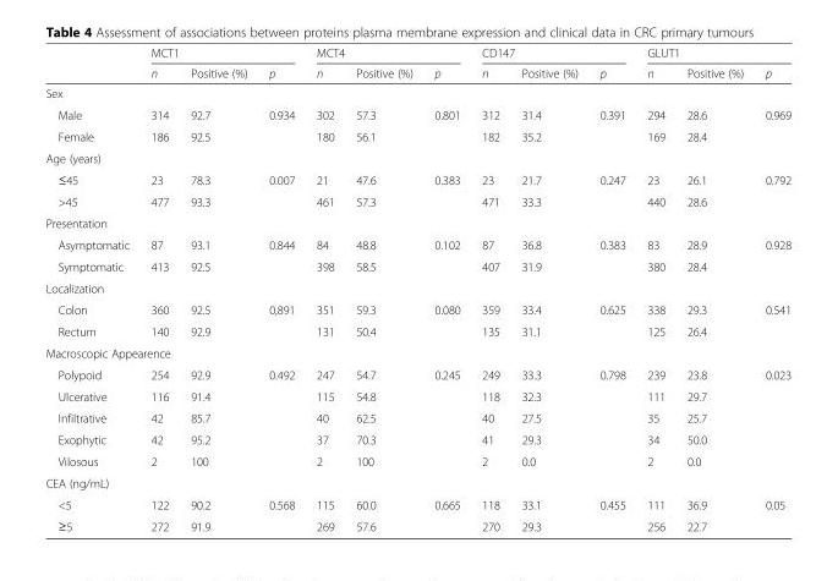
<table><thead><tr><td rowspan="2"></td><td colspan="3">MCT1</td><td colspan="3">MCT4</td><td colspan="3">CD147</td><td colspan="3">GLUT1</td></tr><tr><td>n</td><td>Positive (%)</td><td>p</td><td>n</td><td>Positive (%)</td><td>p</td><td>n</td><td>Positive (%)</td><td>p</td><td>n</td><td>Positive (%)</td><td>p</td></tr></thead><tbody><tr><td colspan="13">Sex</td></tr><tr><td>Male</td><td>314</td><td>92.7</td><td>0.934</td><td>302</td><td>57.3</td><td>0.801</td><td>312</td><td>31.4</td><td>0.391</td><td>294</td><td>28.6</td><td>0.969</td></tr><tr><td>Female</td><td>186</td><td>92.5</td><td></td><td>180</td><td>56.1</td><td></td><td>182</td><td>35.2</td><td></td><td>169</td><td>28.4</td><td></td></tr><tr><td colspan="13">Age (years)</td></tr><tr><td>≤45</td><td>23</td><td>78.3</td><td>0.007</td><td>21</td><td>47.6</td><td>0.383</td><td>23</td><td>21.7</td><td>0.247</td><td>23</td><td>26.1</td><td>0.792</td></tr><tr><td>&gt;45</td><td>477</td><td>93.3</td><td></td><td>461</td><td>57.3</td><td></td><td>471</td><td>33.3</td><td></td><td>440</td><td>28.6</td><td></td></tr><tr><td colspan="13">Presentation</td></tr><tr><td>Asymptomatic</td><td>87</td><td>93.1</td><td>0.844</td><td>84</td><td>48.8</td><td>0.102</td><td>87</td><td>36.8</td><td>0.383</td><td>83</td><td>28.9</td><td>0.928</td></tr><tr><td>Symptomatic</td><td>413</td><td>92.5</td><td></td><td>398</td><td>58.5</td><td></td><td>407</td><td>31.9</td><td></td><td>380</td><td>28.4</td><td></td></tr><tr><td colspan="13">Localization</td></tr><tr><td>Colon</td><td>360</td><td>92.5</td><td>0,891</td><td>351</td><td>59.3</td><td>0.080</td><td>359</td><td>33.4</td><td>0.625</td><td>338</td><td>29.3</td><td>0.541</td></tr><tr><td>Rectum</td><td>140</td><td>92.9</td><td></td><td>131</td><td>50.4</td><td></td><td>135</td><td>31.1</td><td></td><td>125</td><td>26.4</td><td></td></tr><tr><td colspan="13">Macroscopic Appearence</td></tr><tr><td>Polypoid</td><td>254</td><td>92.9</td><td>0.492</td><td>247</td><td>54.7</td><td>0.245</td><td>249</td><td>33.3</td><td>0.798</td><td>239</td><td>23.8</td><td>0.023</td></tr><tr><td>Ulcerative</td><td>116</td><td>91.4</td><td></td><td>115</td><td>54.8</td><td></td><td>118</td><td>32.3</td><td></td><td>111</td><td>29.7</td><td></td></tr><tr><td>Infiltrative</td><td>42</td><td>85.7</td><td></td><td>40</td><td>62.5</td><td></td><td>40</td><td>27.5</td><td></td><td>35</td><td>25.7</td><td></td></tr><tr><td>Exophytic</td><td>42</td><td>95.2</td><td></td><td>37</td><td>70.3</td><td></td><td>41</td><td>29.3</td><td></td><td>34</td><td>50.0</td><td></td></tr><tr><td>Vilosous</td><td>2</td><td>100</td><td></td><td>2</td><td>100</td><td></td><td>2</td><td>0.0</td><td></td><td>2</td><td>0.0</td><td></td></tr><tr><td colspan="13">CEA (ng/mL)</td></tr><tr><td>&lt;5</td><td>122</td><td>90.2</td><td>0.568</td><td>115</td><td>60.0</td><td>0.665</td><td>118</td><td>33.1</td><td>0.455</td><td>111</td><td>36.9</td><td>0.05</td></tr><tr><td>≥5</td><td>272</td><td>91.9</td><td></td><td>269</td><td>57.6</td><td></td><td>270</td><td>29.3</td><td></td><td>256</td><td>22.7</td><td></td></tr></tbody></table>